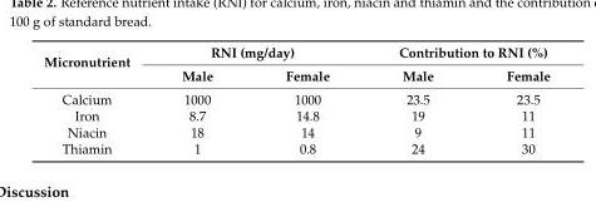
<table><thead><tr><td rowspan="2">Micronutrient</td><td colspan="2">RNI (mg/day)</td><td colspan="2">Contribution to RNI (%)</td></tr><tr><td>Male</td><td>Female</td><td>Male</td><td>Female</td></tr></thead><tbody><tr><td>Calcium</td><td>1000</td><td>1000</td><td>23.5</td><td>23.5</td></tr><tr><td>Iron</td><td>8.7</td><td>14.8</td><td>19</td><td>11</td></tr><tr><td>Niacin</td><td>18</td><td>14</td><td>9</td><td>11</td></tr><tr><td>Thiamin</td><td>1</td><td>0.8</td><td>24</td><td>30</td></tr></tbody></table>